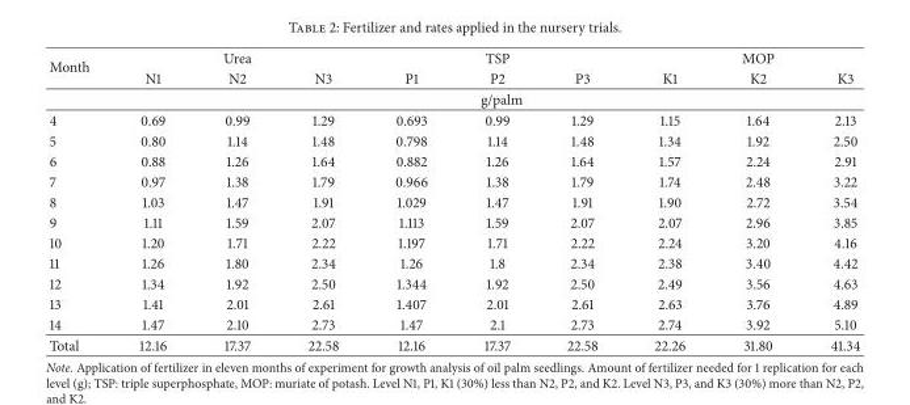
<table><thead><tr><td rowspan="2">Month</td><td rowspan="2">N1</td><td rowspan="2">Urea N2</td><td rowspan="2">N3</td><td rowspan="2">P1</td><td rowspan="2">TSP P2</td><td rowspan="2">P3</td><td rowspan="2">K1</td><td rowspan="2">MOP K2</td><td rowspan="2">K3</td></tr><tr></tr></thead><tbody><tr><td></td><td colspan="9">g/palm</td></tr><tr><td>4</td><td>0.69</td><td>0.99</td><td>1.29</td><td>0.693</td><td>0.99</td><td>1.29</td><td>1.15</td><td>1.64</td><td>2.13</td></tr><tr><td>5</td><td>0.80</td><td>1.14</td><td>1.48</td><td>0.798</td><td>1.14</td><td>1.48</td><td>1.34</td><td>1.92</td><td>2.50</td></tr><tr><td>6</td><td>0.88</td><td>1.26</td><td>1.64</td><td>0.882</td><td>1.26</td><td>1.64</td><td>1.57</td><td>2.24</td><td>2.91</td></tr><tr><td>7</td><td>0.97</td><td>1.38</td><td>1.79</td><td>0.966</td><td>1.38</td><td>1.79</td><td>1.74</td><td>2.48</td><td>3.22</td></tr><tr><td>8</td><td>1.03</td><td>1.47</td><td>1.91</td><td>1.029</td><td>1.47</td><td>1.91</td><td>1.90</td><td>2.72</td><td>3.54</td></tr><tr><td>9</td><td>1.11</td><td>1.59</td><td>2.07</td><td>1.113</td><td>1.59</td><td>2.07</td><td>2.07</td><td>2.96</td><td>3.85</td></tr><tr><td>10</td><td>1.20</td><td>1.71</td><td>2.22</td><td>1.197</td><td>1.71</td><td>2.22</td><td>2.24</td><td>3.20</td><td>4.16</td></tr><tr><td>11</td><td>1.26</td><td>1.80</td><td>2.34</td><td>1.26</td><td>1.8</td><td>2.34</td><td>2.38</td><td>3.40</td><td>4.42</td></tr><tr><td>12</td><td>1.34</td><td>1.92</td><td>2.50</td><td>1.344</td><td>1.92</td><td>2.50</td><td>2.49</td><td>3.56</td><td>4.63</td></tr><tr><td>13</td><td>1.41</td><td>2.01</td><td>2.61</td><td>1.407</td><td>2.01</td><td>2.61</td><td>2.63</td><td>3.76</td><td>4.89</td></tr><tr><td>14</td><td>1.47</td><td>2.10</td><td>2.73</td><td>1.47</td><td>2.1</td><td>2.73</td><td>2.74</td><td>3.92</td><td>5.10</td></tr><tr><td>Total</td><td>12.16</td><td>17.37</td><td>22.58</td><td>12.16</td><td>17.37</td><td>22.58</td><td>22.26</td><td>31.80</td><td>41.34</td></tr></tbody></table>